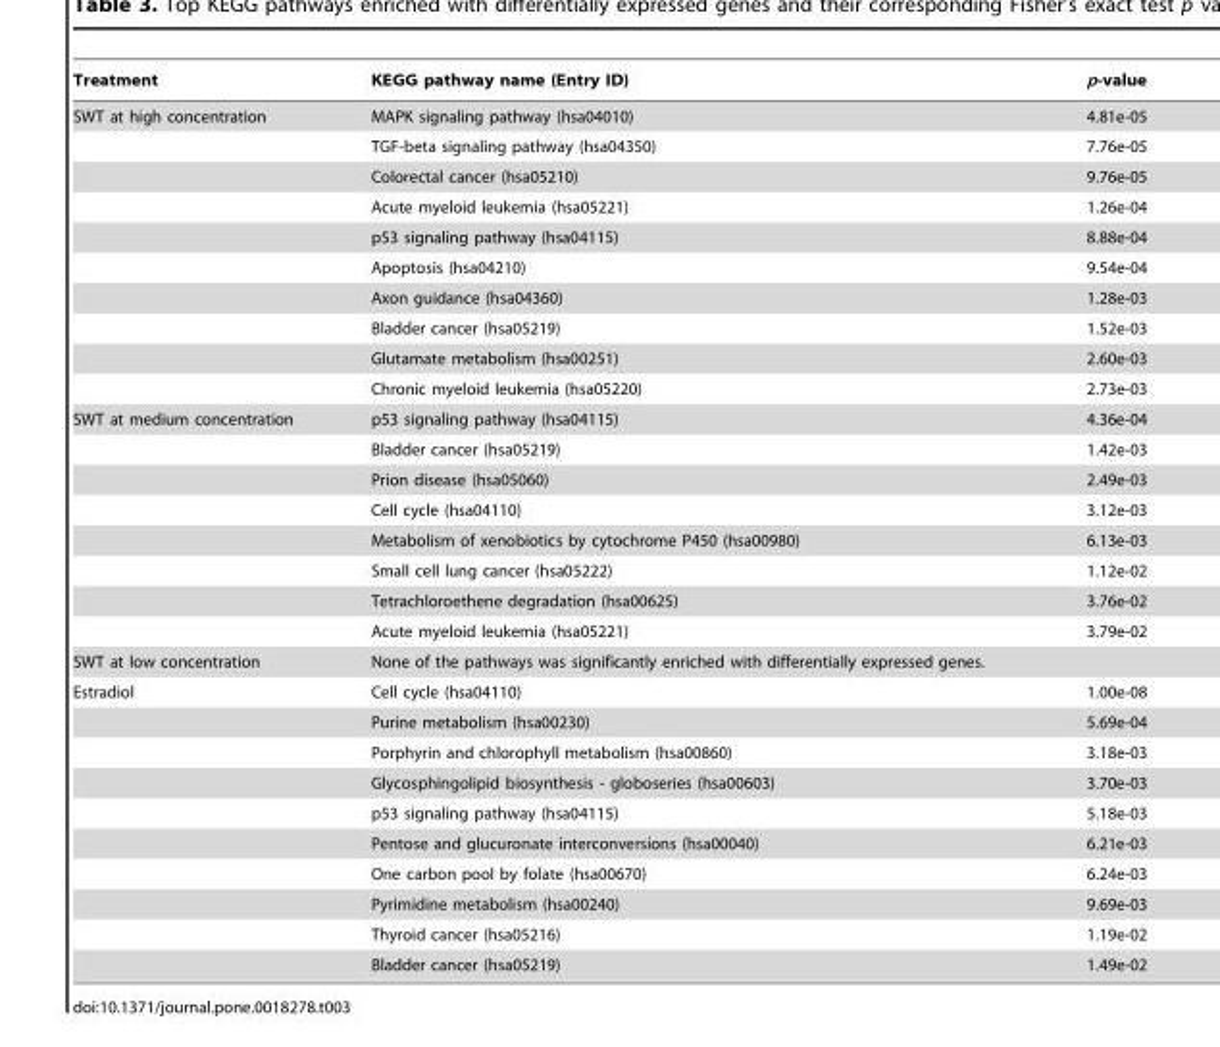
<table><thead><tr><td>Treatment</td><td>KEGG pathway name (Entry ID)</td><td>p-value</td></tr></thead><tbody><tr><td rowspan="10">SWT at high concentration</td><td>MAPK signaling pathway (hsa04010)</td><td>4.81e-05</td></tr><tr><td>TGF-beta signaling pathway (hsa04350)</td><td>7.76e-05</td></tr><tr><td>Colorectal cancer (hsa05210)</td><td>9.76e-05</td></tr><tr><td>Acute myeloid leukemia (hsa05221)</td><td>1.26e-04</td></tr><tr><td>p53 signaling pathway (hsa04115)</td><td>8.88e-04</td></tr><tr><td>Apoptosis (hsa04210)</td><td>9.54e-04</td></tr><tr><td>Axon guidance (hsa04360)</td><td>1.28e-03</td></tr><tr><td>Bladder cancer (hsa05219)</td><td>1.52e-03</td></tr><tr><td>Glutamate metabolism (hsa00251)</td><td>2.60e-03</td></tr><tr><td>Chronic myeloid leukemia (hsa05220)</td><td>2.73e-03</td></tr><tr><td rowspan="8">SWT at medium concentration</td><td>p53 signaling pathway (hsa04115)</td><td>4.36e-04</td></tr><tr><td>Bladder cancer (hsa05219)</td><td>1.42e-03</td></tr><tr><td>Prion disease (hsa05060)</td><td>2.49e-03</td></tr><tr><td>Cell cycle (hsa04110)</td><td>3.12e-03</td></tr><tr><td>Metabolism of xenobiotics by cytochrome P450 (hsa00980)</td><td>6.13e-03</td></tr><tr><td>Small cell lung cancer (hsa05222)</td><td>1.12e-02</td></tr><tr><td>Tetrachloroethene degradation (hsa00625)</td><td>3.76e-02</td></tr><tr><td>Acute myeloid leukemia (hsa05221)</td><td>3.79e-02</td></tr><tr><td>SWT at low concentration</td><td colspan="2">None of the pathways was significantly enriched with differentially expressed genes.</td></tr><tr><td rowspan="10">Estradiol</td><td>Cell cycle (hsa04110)</td><td>1.00e-08</td></tr><tr><td>Purine metabolism (hsa00230)</td><td>5.69e-04</td></tr><tr><td>Porphyrin and chlorophyll metabolism (hsa00860)</td><td>3.18e-03</td></tr><tr><td>Glycosphingolipid biosynthesis - globoseries (hsa00603)</td><td>3.70e-03</td></tr><tr><td>p53 signaling pathway (hsa04115)</td><td>5.18e-03</td></tr><tr><td>Pentose and glucuronate interconversions (hsa00040)</td><td>6.21e-03</td></tr><tr><td>One carbon pool by folate (hsa00670)</td><td>6.24e-03</td></tr><tr><td>Pyrimidine metabolism (hsa00240)</td><td>9.69e-03</td></tr><tr><td>Thyroid cancer (hsa05216)</td><td>1.19e-02</td></tr><tr><td>Bladder cancer (hsa05219)</td><td>1.49e-02</td></tr></tbody></table>